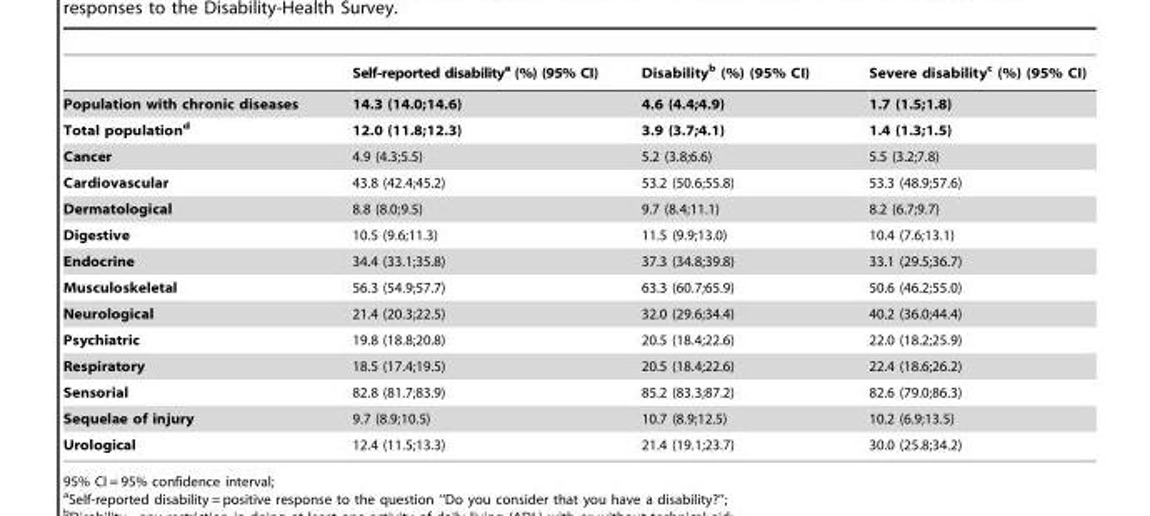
<table><thead><tr><td></td><td>Self-reported disability<sup>a</sup> (%) (95% CI)</td><td>Disability<sup>b</sup> (%) (95% CI)</td><td>Severe disability<sup>c</sup> (%) (95% CI)</td></tr></thead><tbody><tr><td>Population with chronic diseases</td><td>14.3 (14.0;14.6)</td><td>4.6 (4.4;4.9)</td><td>1.7 (1.5;1.8)</td></tr><tr><td>Total populationd</td><td>12.0 (11.8;12.3)</td><td>3.9 (3.7;4.1)</td><td>1.4 (1.3;1.5)</td></tr><tr><td>Cancer</td><td>4.9 (4.3;5.5)</td><td>5.2 (3.8;6.6)</td><td>5.5 (3.2;7.8)</td></tr><tr><td>Cardiovascular</td><td>43.8 (42.4;45.2)</td><td>53.2 (50.6;55.8)</td><td>53.3 (48.9;57.6)</td></tr><tr><td>Dermatological</td><td>8.8 (8.0;9.5)</td><td>9.7 (8.4;11.1)</td><td>8.2 (6.7;9.7)</td></tr><tr><td>Digestive</td><td>10.5 (9.6;11.3)</td><td>11.5 (9.9;13.0)</td><td>10.4 (7.6;13.1)</td></tr><tr><td>Endocrine</td><td>34.4 (33.1;35.8)</td><td>37.3 (34.8;39.8)</td><td>33.1 (29.5;36.7)</td></tr><tr><td>Musculoskeletal</td><td>56.3 (54.9;57.7)</td><td>63.3 (60.7;65.9)</td><td>50.6 (46.2;55.0)</td></tr><tr><td>Neurological</td><td>21.4 (20.3;22.5)</td><td>32.0 (29.6;34.4)</td><td>40.2 (36.0;44.4)</td></tr><tr><td>Psychiatric</td><td>19.8 (18.8;20.8)</td><td>20.5 (18.4;22.6)</td><td>22.0 (18.2;25.9)</td></tr><tr><td>Respiratory</td><td>18.5 (17.4;19.5)</td><td>20.5 (18.4;22.6)</td><td>22.4 (18.6;26.2)</td></tr><tr><td>Sensorial</td><td>82.8 (81.7;83.9)</td><td>85.2 (83.3;87.2)</td><td>82.6 (79.0;86.3)</td></tr><tr><td>Sequelae of injury</td><td>9.7 (8.9;10.5)</td><td>10.7 (8.9;12.5)</td><td>10.2 (6.9;13.5)</td></tr><tr><td>Urological</td><td>12.4 (11.5;13.3)</td><td>21.4 (19.1;23.7)</td><td>30.0 (25.8;34.2)</td></tr></tbody></table>